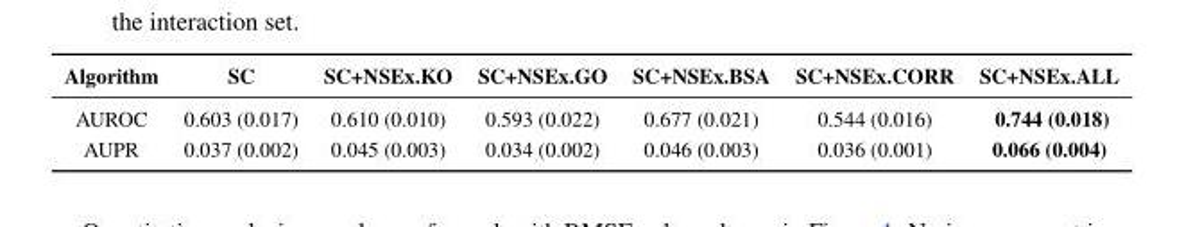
<table><thead><tr><td>Algorithm</td><td>SC</td><td>SC+NSEx.KO</td><td>SC+NSEx.GO</td><td>SC+NSEx.BSA</td><td>SC+NSEx.CORR</td><td>SC+NSEx.ALL</td></tr></thead><tbody><tr><td>AUROC</td><td>0.603 (0.017)</td><td>0.610 (0.010)</td><td>0.593 (0.022)</td><td>0.677 (0.021)</td><td>0.544 (0.016)</td><td>0.744 (0.018)</td></tr><tr><td>AUPR</td><td>0.037 (0.002)</td><td>0.045 (0.003)</td><td>0.034 (0.002)</td><td>0.046 (0.003)</td><td>0.036 (0.001)</td><td>0.066 (0.004)</td></tr></tbody></table>